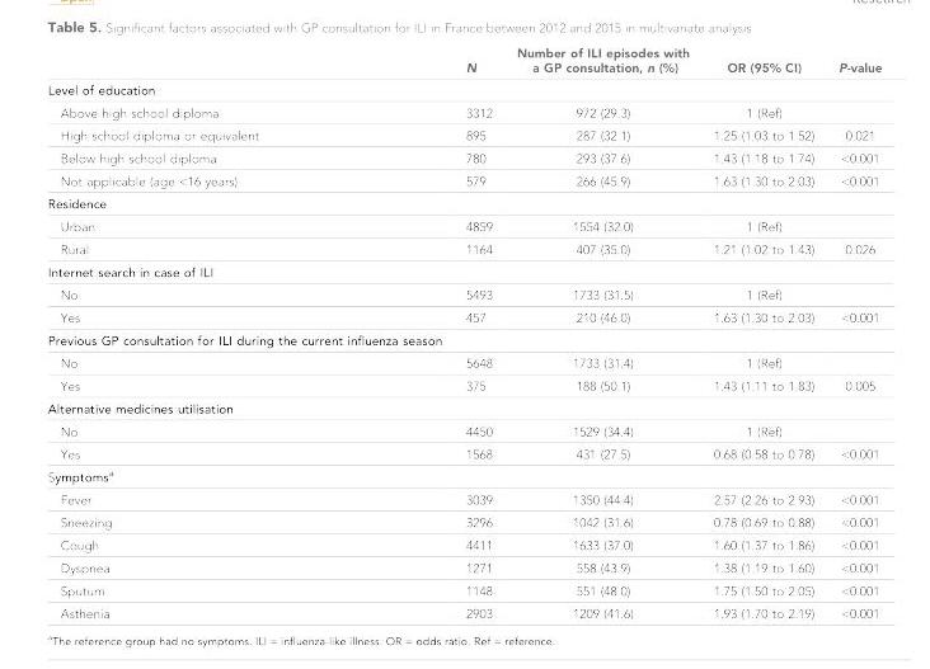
<table><thead><tr><td></td><td>N</td><td>Number of ILI episodes with a GP consultation, n (%)</td><td>OR (95% CI)</td><td>P-value</td></tr></thead><tbody><tr><td colspan="5">Level of education</td></tr><tr><td>Above high school diploma</td><td>3312</td><td>972 (29.3)</td><td>1 (Ref)</td><td></td></tr><tr><td>High school diploma or equivalent</td><td>895</td><td>287 (32.1)</td><td>1.25 (1.03 to 1.52)</td><td>0.021</td></tr><tr><td>Below high school diploma</td><td>780</td><td>293 (37.6)</td><td>1.43 (1.18 to 1.74)</td><td>&lt;0.001</td></tr><tr><td>Not applicable (age &lt;16 years)</td><td>579</td><td>266 (45.9)</td><td>1.63 (1.30 to 2.03)</td><td>&lt;0.001</td></tr><tr><td colspan="5">Residence</td></tr><tr><td>Urban</td><td>4859</td><td>1554 (32.0)</td><td>1 (Ref)</td><td></td></tr><tr><td>Rural</td><td>1164</td><td>407 (35.0)</td><td>1.21 (1.02 to 1.43)</td><td>0.026</td></tr><tr><td colspan="5">Internet search in case of ILI</td></tr><tr><td>No</td><td>5493</td><td>1733 (31.5)</td><td>1 (Ref)</td><td></td></tr><tr><td>Yes</td><td>457</td><td>210 (46.0)</td><td>1.63 (1.30 to 2.03)</td><td>&lt;0.001</td></tr><tr><td colspan="5">Previous GP consultation for ILI during the current influenza season</td></tr><tr><td>No</td><td>5648</td><td>1733 (31.4)</td><td>1 (Ref)</td><td></td></tr><tr><td>Yes</td><td>375</td><td>188 (50.1)</td><td>1.43 (1.11 to 1.83)</td><td>0.005</td></tr><tr><td colspan="5">Alternative medicines utilisation</td></tr><tr><td>No</td><td>4450</td><td>1529 (34.4)</td><td>1 (Ref)</td><td></td></tr><tr><td>Yes</td><td>1568</td><td>431 (27.5)</td><td>0.68 (0.58 to 0.78)</td><td>&lt;0.001</td></tr><tr><td colspan="5">Symptoms<sup>a</sup></td></tr><tr><td>Fever</td><td>3039</td><td>1350 (44.4)</td><td>2.57 (2.26 to 2.93)</td><td>&lt;0.001</td></tr><tr><td>Sneezing</td><td>3296</td><td>1042 (31.6)</td><td>0.78 (0.69 to 0.88)</td><td>&lt;0.001</td></tr><tr><td>Cough</td><td>4411</td><td>1633 (37.0)</td><td>1.60 (1.37 to 1.86)</td><td>&lt;0.001</td></tr><tr><td>Dyspnea</td><td>1271</td><td>558 (43.9)</td><td>1.38 (1.19 to 1.60)</td><td>&lt;0.001</td></tr><tr><td>Sputum</td><td>1148</td><td>551 (48.0)</td><td>1.75 (1.50 to 2.05)</td><td>&lt;0.001</td></tr><tr><td>Asthenia</td><td>2903</td><td>1209 (41.6)</td><td>1.93 (1.70 to 2.19)</td><td>&lt;0.001</td></tr></tbody></table>